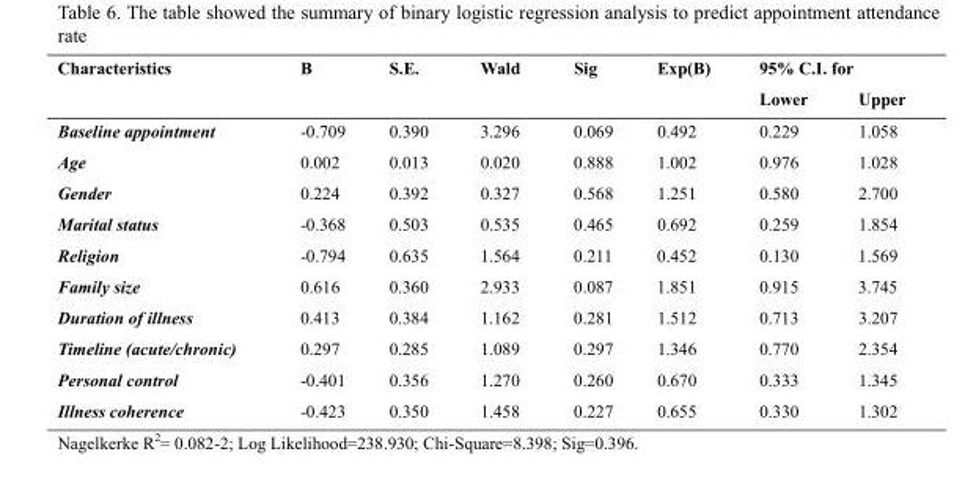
<table><thead><tr><td rowspan="2">Characteristics</td><td rowspan="2">B</td><td rowspan="2">S.E.</td><td rowspan="2">Wald</td><td rowspan="2">Sig</td><td rowspan="2">Exp(B)</td><td colspan="2">95% C.I. for</td></tr><tr><td>Lower</td><td>Upper</td></tr></thead><tbody><tr><td>Baseline appointment</td><td>-0.709</td><td>0.390</td><td>3.296</td><td>0.069</td><td>0.492</td><td>0.229</td><td>1.058</td></tr><tr><td>Age</td><td>0.002</td><td>0.013</td><td>0.020</td><td>0.888</td><td>1.002</td><td>0.976</td><td>1.028</td></tr><tr><td>Gender</td><td>0.224</td><td>0.392</td><td>0.327</td><td>0.568</td><td>1.251</td><td>0.580</td><td>2.700</td></tr><tr><td>Marital status</td><td>-0.368</td><td>0.503</td><td>0.535</td><td>0.465</td><td>0.692</td><td>0.259</td><td>1.854</td></tr><tr><td>Religion</td><td>-0.794</td><td>0.635</td><td>1.564</td><td>0.211</td><td>0.452</td><td>0.130</td><td>1.569</td></tr><tr><td>Family size</td><td>0.616</td><td>0.360</td><td>2.933</td><td>0.087</td><td>1.851</td><td>0.915</td><td>3.745</td></tr><tr><td>Duration of illness</td><td>0.413</td><td>0.384</td><td>1.162</td><td>0.281</td><td>1.512</td><td>0.713</td><td>3.207</td></tr><tr><td>Timeline (acute/chronic)</td><td>0.297</td><td>0.285</td><td>1.089</td><td>0.297</td><td>1.346</td><td>0.770</td><td>2.354</td></tr><tr><td>Personal control</td><td>-0.401</td><td>0.356</td><td>1.270</td><td>0.260</td><td>0.670</td><td>0.333</td><td>1.345</td></tr><tr><td>Illness coherence</td><td>-0.423</td><td>0.350</td><td>1.458</td><td>0.227</td><td>0.655</td><td>0.330</td><td>1.302</td></tr></tbody></table>